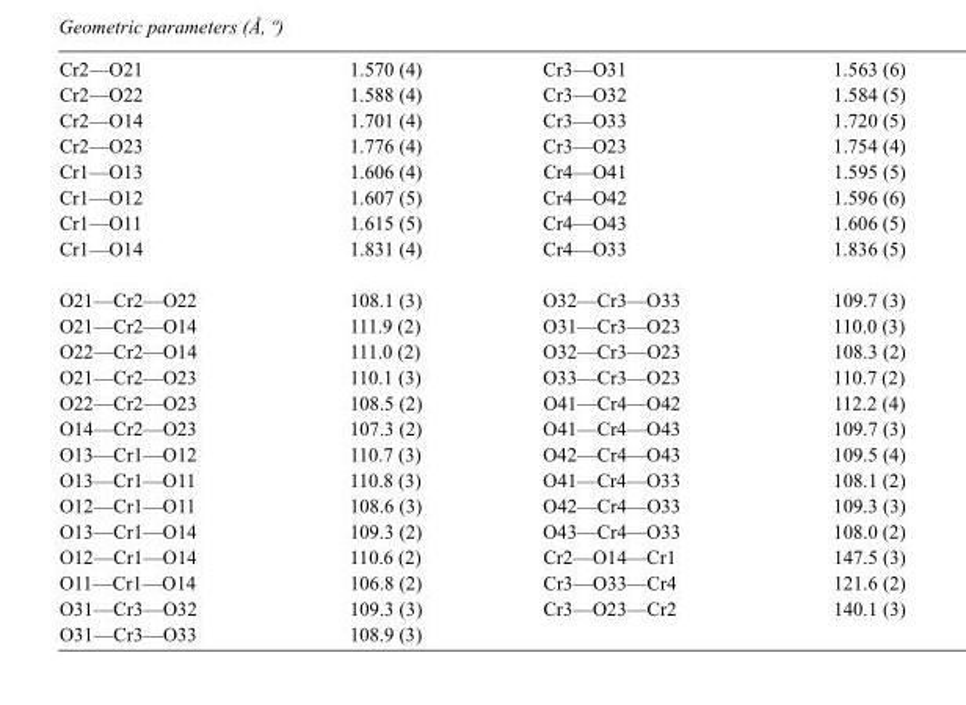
<table><tbody><tr><td>Cr2—O21</td><td>1.570 (4)</td><td>Cr3—O31</td><td>1.563 (6)</td></tr><tr><td>Cr2—O22</td><td>1.588 (4)</td><td>Cr3—O32</td><td>1.584 (5)</td></tr><tr><td>Cr2—O14</td><td>1.701 (4)</td><td>Cr3—O33</td><td>1.720 (5)</td></tr><tr><td>Cr2—O23</td><td>1.776 (4)</td><td>Cr3—O23</td><td>1.754 (4)</td></tr><tr><td>Cr1—O13</td><td>1.606 (4)</td><td>Cr4—O41</td><td>1.595 (5)</td></tr><tr><td>Cr1—O12</td><td>1.607 (5)</td><td>Cr4—O42</td><td>1.596 (6)</td></tr><tr><td>Cr1—O11</td><td>1.615 (5)</td><td>Cr4—O43</td><td>1.606 (5)</td></tr><tr><td>Cr1—O14</td><td>1.831 (4)</td><td>Cr4—O33</td><td>1.836 (5)</td></tr><tr><td>O21—Cr2—O22</td><td>108.1 (3)</td><td>O32—Cr3—O33</td><td>109.7 (3)</td></tr><tr><td>O21—Cr2—O14</td><td>111.9 (2)</td><td>O31—Cr3—O23</td><td>110.0 (3)</td></tr><tr><td>O22—Cr2—O14</td><td>111.0 (2)</td><td>O32—Cr3—O23</td><td>108.3 (2)</td></tr><tr><td>O21—Cr2—O23</td><td>110.1 (3)</td><td>O33—Cr3—O23</td><td>110.7 (2)</td></tr><tr><td>O22—Cr2—O23</td><td>108.5 (2)</td><td>O41—Cr4—O42</td><td>112.2 (4)</td></tr><tr><td>O14—Cr2—O23</td><td>107.3 (2)</td><td>O41—Cr4—O43</td><td>109.7 (3)</td></tr><tr><td>O13—Cr1—O12</td><td>110.7 (3)</td><td>O42—Cr4—O43</td><td>109.5 (4)</td></tr><tr><td>O13—Cr1—O11</td><td>110.8 (3)</td><td>O41—Cr4—O33</td><td>108.1 (2)</td></tr><tr><td>O12—Cr1—O11</td><td>108.6 (3)</td><td>O42—Cr4—O33</td><td>109.3 (3)</td></tr><tr><td>O13—Cr1—O14</td><td>109.3 (2)</td><td>O43—Cr4—O33</td><td>108.0 (2)</td></tr><tr><td>O12—Cr1—O14</td><td>110.6 (2)</td><td>Cr2—O14—Cr1</td><td>147.5 (3)</td></tr><tr><td>O11—Cr1—O14</td><td>106.8 (2)</td><td>Cr3—O33—Cr4</td><td>121.6 (2)</td></tr><tr><td>O31—Cr3—O32</td><td>109.3 (3)</td><td>Cr3—O23—Cr2</td><td>140.1 (3)</td></tr><tr><td>O31—Cr3—O33</td><td>108.9 (3)</td><td></td><td></td></tr></tbody></table>